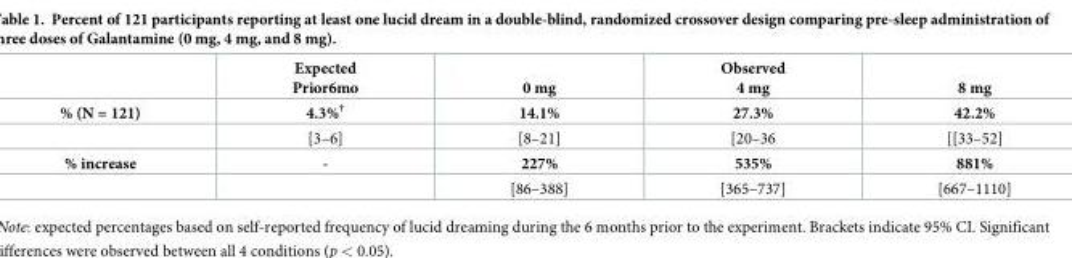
<table><thead><tr><td></td><td>Expected Prior6mo</td><td>0 mg</td><td>Observed 4 mg</td><td>8 mg</td></tr></thead><tbody><tr><td rowspan="2">% (N = 121)</td><td>4.3%<sup>†</sup></td><td>14.1%</td><td>27.3%</td><td>42.2%</td></tr><tr><td>[3–6]</td><td>[8–21]</td><td>[20–36</td><td>[[33–52]</td></tr><tr><td rowspan="2">% increase</td><td>-</td><td>227%</td><td>535%</td><td>881%</td></tr><tr><td></td><td>[86–388]</td><td>[365–737]</td><td>[667–1110]</td></tr></tbody></table>